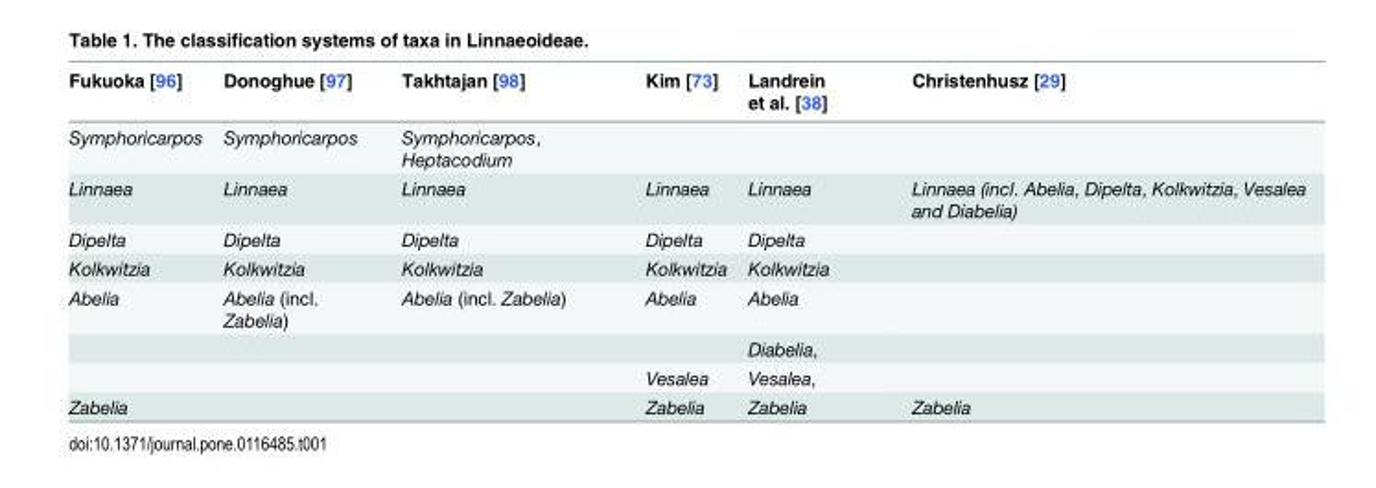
<table><thead><tr><td>Fukuoka [96]</td><td>Donoghue [97]</td><td>Takhtajan [98]</td><td>Kim [73]</td><td>Landrein et al. [38]</td><td>Christenhusz [29]</td></tr></thead><tbody><tr><td>Symphoricarpos</td><td>Symphoricarpos</td><td>Symphoricarpos, Heptacodium</td><td></td><td></td><td></td></tr><tr><td>Linnaea</td><td>Linnaea</td><td>Linnaea</td><td>Linnaea</td><td>Linnaea</td><td>Linnaea (incl. Abelia, Dipelta, Kolkwitzia, Vesalea and Diabelia)</td></tr><tr><td>Dipelta</td><td>Dipelta</td><td>Dipelta</td><td>Dipelta</td><td>Dipelta</td><td></td></tr><tr><td>Kolkwitzia</td><td>Kolkwitzia</td><td>Kolkwitzia</td><td>Kolkwitzia</td><td>Kolkwitzia</td><td></td></tr><tr><td rowspan="3">Abelia</td><td>Abelia (incl. Zabelia)</td><td>Abelia (incl. Zabelia)</td><td>Abelia</td><td>Abelia</td><td></td></tr><tr><td></td><td></td><td></td><td>Diabelia,</td><td></td></tr><tr><td></td><td></td><td>Vesalea</td><td>Vesalea,</td><td></td></tr><tr><td>Zabelia</td><td></td><td></td><td>Zabelia</td><td>Zabelia</td><td>Zabelia</td></tr></tbody></table>